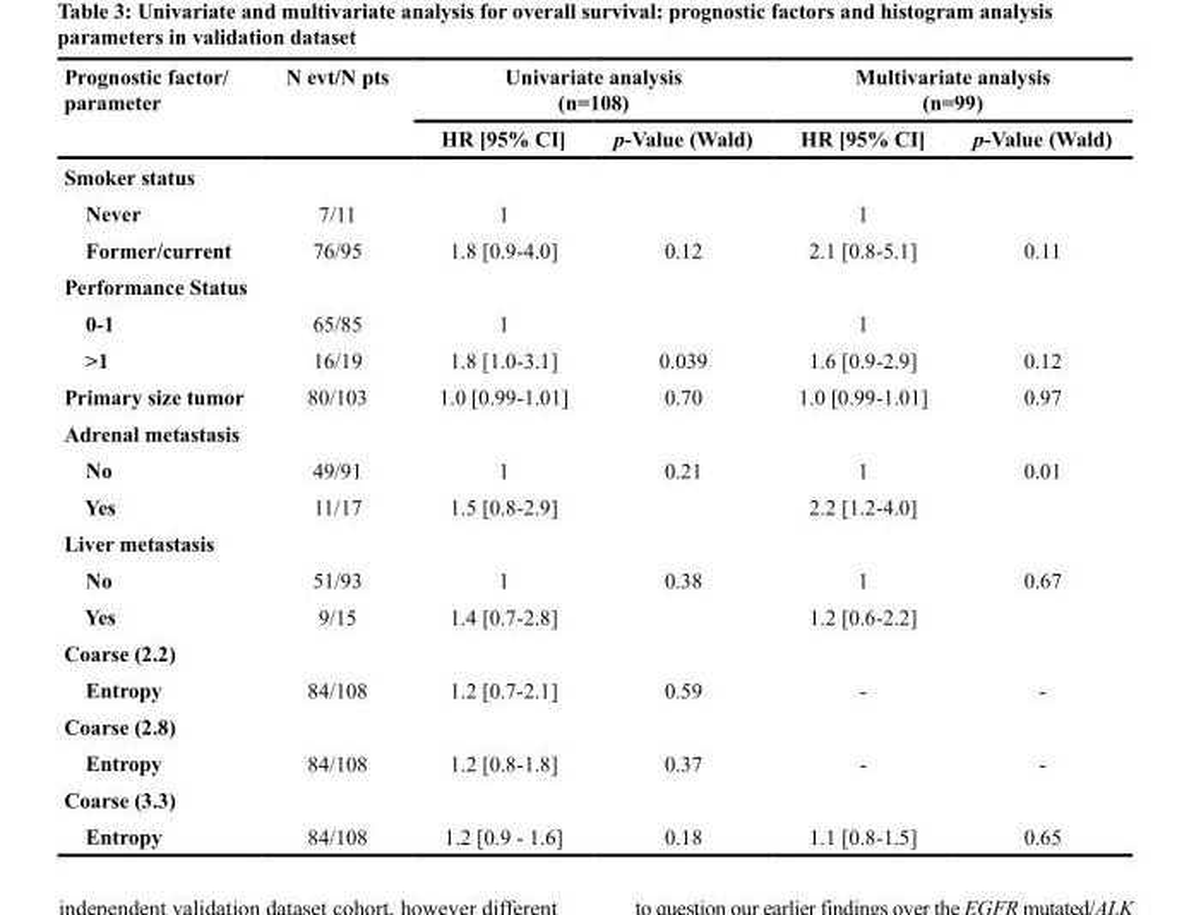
<table><thead><tr><td rowspan="2">Prognostic factor/ parameter</td><td rowspan="2">N evt/N pts</td><td colspan="2">Univariate analysis (n=108)</td><td colspan="2">Multivariate analysis (n=99)</td></tr><tr><td>HR [95% CI]</td><td>p-Value (Wald)</td><td>HR [95% CI]</td><td>p-Value (Wald)</td></tr></thead><tbody><tr><td colspan="6">Smoker status</td></tr><tr><td>Never</td><td>7/11</td><td>1</td><td></td><td>1</td><td></td></tr><tr><td>Former/current</td><td>76/95</td><td>1.8 [0.9-4.0]</td><td>0.12</td><td>2.1 [0.8-5.1]</td><td>0.11</td></tr><tr><td colspan="6">Performance Status</td></tr><tr><td>0-1</td><td>65/85</td><td>1</td><td></td><td>1</td><td></td></tr><tr><td>&gt;1</td><td>16/19</td><td>1.8 [1.0-3.1]</td><td>0.039</td><td>1.6 [0.9-2.9]</td><td>0.12</td></tr><tr><td>Primary size tumor</td><td>80/103</td><td>1.0 [0.99-1.01]</td><td>0.70</td><td>1.0 [0.99-1.01]</td><td>0.97</td></tr><tr><td colspan="6">Adrenal metastasis</td></tr><tr><td>No</td><td>49/91</td><td>1</td><td>0.21</td><td>1</td><td>0.01</td></tr><tr><td>Yes</td><td>11/17</td><td>1.5 [0.8-2.9]</td><td></td><td>2.2 [1.2-4.0]</td><td></td></tr><tr><td colspan="6">Liver metastasis</td></tr><tr><td>No</td><td>51/93</td><td>1</td><td>0.38</td><td>1</td><td>0.67</td></tr><tr><td>Yes</td><td>9/15</td><td>1.4 [0.7-2.8]</td><td></td><td>1.2 [0.6-2.2]</td><td></td></tr><tr><td colspan="6">Coarse (2.2)</td></tr><tr><td>Entropy</td><td>84/108</td><td>1.2 [0.7-2.1]</td><td>0.59</td><td>-</td><td>-</td></tr><tr><td colspan="6">Coarse (2.8)</td></tr><tr><td>Entropy</td><td>84/108</td><td>1.2 [0.8-1.8]</td><td>0.37</td><td>-</td><td>-</td></tr><tr><td colspan="6">Coarse (3.3)</td></tr><tr><td>Entropy</td><td>84/108</td><td>1.2 [0.9 - 1.6]</td><td>0.18</td><td>1.1 [0.8-1.5]</td><td>0.65</td></tr></tbody></table>